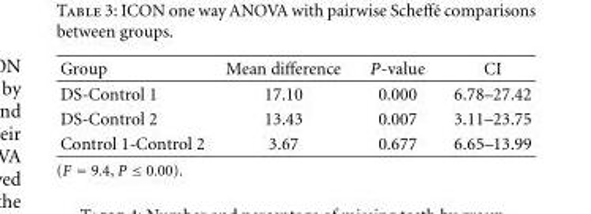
<table><thead><tr><td>Group</td><td>Mean difference</td><td>P-value</td><td>CI</td></tr></thead><tbody><tr><td>DS-Control 1</td><td>17.10</td><td>0.000</td><td>6.78–27.42</td></tr><tr><td>DS-Control 2</td><td>13.43</td><td>0.007</td><td>3.11–23.75</td></tr><tr><td>Control 1-Control 2</td><td>3.67</td><td>0.677</td><td>6.65–13.99</td></tr></tbody></table>